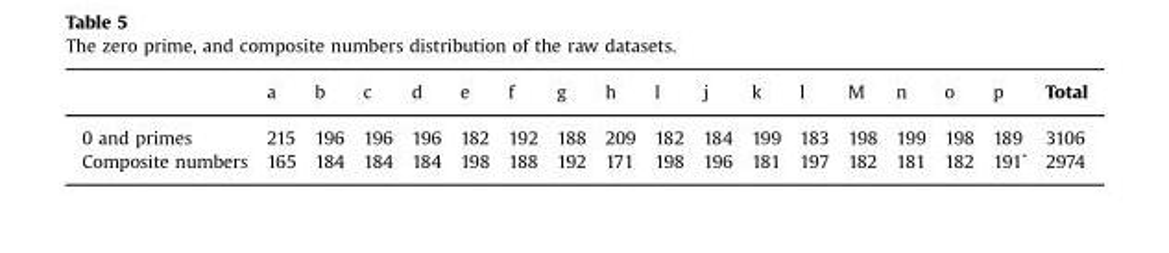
<table><thead><tr><td></td><td>a</td><td>b</td><td>c</td><td>d</td><td>e</td><td>f</td><td>g</td><td>h</td><td>I</td><td>j</td><td>k</td><td>l</td><td>M</td><td>n</td><td>o</td><td>p</td><td>Total</td></tr></thead><tbody><tr><td>0 and primes</td><td>215</td><td>196</td><td>196</td><td>196</td><td>182</td><td>192</td><td>188</td><td>209</td><td>182</td><td>184</td><td>199</td><td>183</td><td>198</td><td>199</td><td>198</td><td>189</td><td>3106</td></tr><tr><td>Composite numbers</td><td>165</td><td>184</td><td>184</td><td>184</td><td>198</td><td>188</td><td>192</td><td>171</td><td>198</td><td>196</td><td>181</td><td>197</td><td>182</td><td>181</td><td>182</td><td>191`</td><td>2974</td></tr></tbody></table>